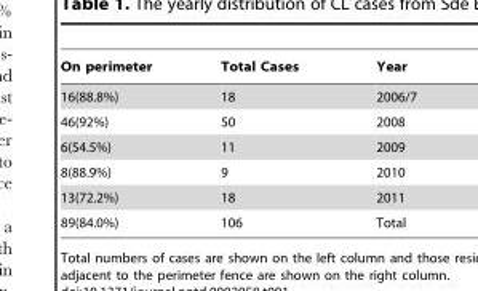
<table><thead><tr><td>On perimeter</td><td>Total Cases</td><td>Year</td></tr></thead><tbody><tr><td>16(88.8%)</td><td>18</td><td>2006/7</td></tr><tr><td>46(92%)</td><td>50</td><td>2008</td></tr><tr><td>6(54.5%)</td><td>11</td><td>2009</td></tr><tr><td>8(88.9%)</td><td>9</td><td>2010</td></tr><tr><td>13(72.2%)</td><td>18</td><td>2011</td></tr><tr><td>89(84.0%)</td><td>106</td><td>Total</td></tr></tbody></table>